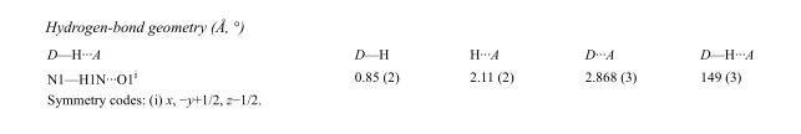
<table><tbody><tr><td>D—H···A</td><td>D—H</td><td>H···A</td><td>D···A</td><td>D—H···A</td></tr><tr><td>N1—H1N···O1<sup>i</sup></td><td>0.85 (2)</td><td>2.11 (2)</td><td>2.868 (3)</td><td>149 (3)</td></tr></tbody></table>